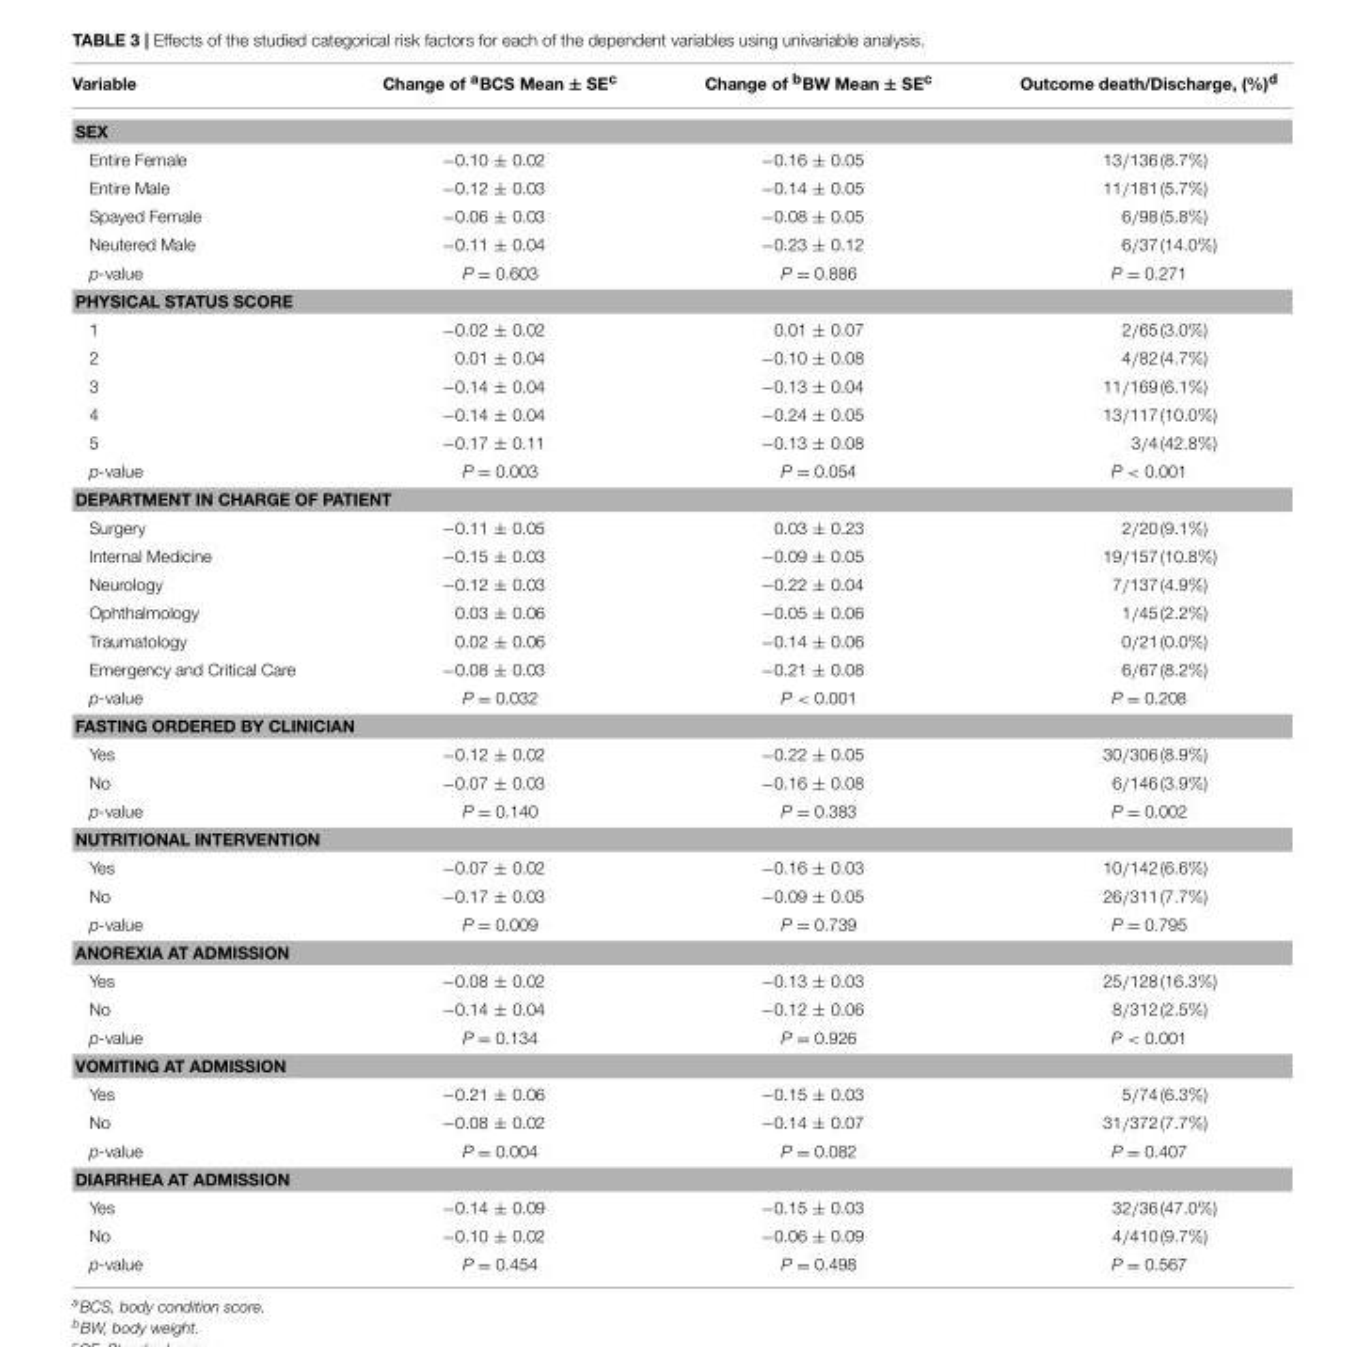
<table><thead><tr><td>Variable</td><td>Change of <sup>a</sup>BCS Mean ± SE<sup>c</sup></td><td>Change of <sup>b</sup>BW Mean ± SE<sup>c</sup></td><td>Outcome death/Discharge, (%)<sup>d</sup></td></tr></thead><tbody><tr><td colspan="4">SEX</td></tr><tr><td>Entire Female</td><td>−0.10 ± 0.02</td><td>−0.16 ± 0.05</td><td>13/136 (8.7%)</td></tr><tr><td>Entire Male</td><td>−0.12 ± 0.03</td><td>−0.14 ± 0.05</td><td>11/181 (5.7%)</td></tr><tr><td>Spayed Female</td><td>−0.06 ± 0.03</td><td>−0.08 ± 0.05</td><td>6/98 (5.8%)</td></tr><tr><td>Neutered Male</td><td>−0.11 ± 0.04</td><td>−0.23 ± 0.12</td><td>6/37 (14.0%)</td></tr><tr><td>p-value</td><td>P = 0.603</td><td>P = 0.886</td><td>P = 0.271</td></tr><tr><td colspan="4">PHYSICAL STATUS SCORE</td></tr><tr><td>1</td><td>−0.02 ± 0.02</td><td>0.01 ± 0.07</td><td>2/65 (3.0%)</td></tr><tr><td>2</td><td>0.01 ± 0.04</td><td>−0.10 ± 0.08</td><td>4/82 (4.7%)</td></tr><tr><td>3</td><td>−0.14 ± 0.04</td><td>−0.13 ± 0.04</td><td>11/169 (6.1%)</td></tr><tr><td>4</td><td>−0.14 ± 0.04</td><td>−0.24 ± 0.05</td><td>13/117 (10.0%)</td></tr><tr><td>5</td><td>−0.17 ± 0.11</td><td>−0.13 ± 0.08</td><td>3/4 (42.8%)</td></tr><tr><td>p-value</td><td>P = 0.003</td><td>P = 0.054</td><td>P &lt; 0.001</td></tr><tr><td colspan="4">DEPARTMENT IN CHARGE OF PATIENT</td></tr><tr><td>Surgery</td><td>−0.11 ± 0.05</td><td>0.03 ± 0.23</td><td>2/20 (9.1%)</td></tr><tr><td>Internal Medicine</td><td>−0.15 ± 0.03</td><td>−0.09 ± 0.05</td><td>19/157 (10.8%)</td></tr><tr><td>Neurology</td><td>−0.12 ± 0.03</td><td>−0.22 ± 0.04</td><td>7/137 (4.9%)</td></tr><tr><td>Ophthalmology</td><td>0.03 ± 0.06</td><td>−0.05 ± 0.06</td><td>1/45 (2.2%)</td></tr><tr><td>Traumatology</td><td>0.02 ± 0.06</td><td>−0.14 ± 0.06</td><td>0/21 (0.0%)</td></tr><tr><td>Emergency and Critical Care</td><td>−0.08 ± 0.03</td><td>−0.21 ± 0.08</td><td>6/67 (8.2%)</td></tr><tr><td>p-value</td><td>P = 0.032</td><td>P &lt; 0.001</td><td>P = 0.208</td></tr><tr><td colspan="4">FASTING ORDERED BY CLINICIAN</td></tr><tr><td>Yes</td><td>−0.12 ± 0.02</td><td>−0.22 ± 0.05</td><td>30/306 (8.9%)</td></tr><tr><td>No</td><td>−0.07 ± 0.03</td><td>−0.16 ± 0.08</td><td>6/146 (3.9%)</td></tr><tr><td>p-value</td><td>P = 0.140</td><td>P = 0.383</td><td>P = 0.002</td></tr><tr><td colspan="4">NUTRITIONAL INTERVENTION</td></tr><tr><td>Yes</td><td>−0.07 ± 0.02</td><td>−0.16 ± 0.03</td><td>10/142 (6.6%)</td></tr><tr><td>No</td><td>−0.17 ± 0.03</td><td>−0.09 ± 0.05</td><td>26/311 (7.7%)</td></tr><tr><td>p-value</td><td>P = 0.009</td><td>P = 0.739</td><td>P = 0.795</td></tr><tr><td colspan="4">ANOREXIA AT ADMISSION</td></tr><tr><td>Yes</td><td>−0.08 ± 0.02</td><td>−0.13 ± 0.03</td><td>25/128 (16.3%)</td></tr><tr><td>No</td><td>−0.14 ± 0.04</td><td>−0.12 ± 0.06</td><td>8/312 (2.5%)</td></tr><tr><td>p-value</td><td>P = 0.134</td><td>P = 0.926</td><td>P &lt; 0.001</td></tr><tr><td colspan="4">VOMITING AT ADMISSION</td></tr><tr><td>Yes</td><td>−0.21 ± 0.06</td><td>−0.15 ± 0.03</td><td>5/74 (6.3%)</td></tr><tr><td>No</td><td>−0.08 ± 0.02</td><td>−0.14 ± 0.07</td><td>31/372 (7.7%)</td></tr><tr><td>p-value</td><td>P = 0.004</td><td>P = 0.082</td><td>P = 0.407</td></tr><tr><td colspan="4">DIARRHEA AT ADMISSION</td></tr><tr><td>Yes</td><td>−0.14 ± 0.09</td><td>−0.15 ± 0.03</td><td>32/36 (47.0%)</td></tr><tr><td>No</td><td>−0.10 ± 0.02</td><td>−0.06 ± 0.09</td><td>4/410 (9.7%)</td></tr><tr><td>p-value</td><td>P = 0.454</td><td>P = 0.498</td><td>P = 0.567</td></tr></tbody></table>